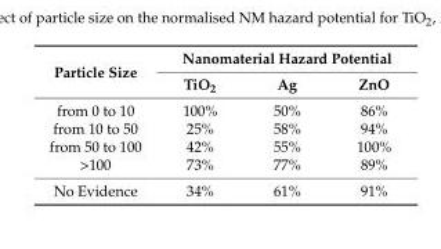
<table><thead><tr><td rowspan="2">Particle Size</td><td colspan="3">Nanomaterial Hazard Potential</td></tr><tr><td>TiO<sub>2</sub></td><td>Ag</td><td>ZnO</td></tr></thead><tbody><tr><td>from 0 to 10</td><td>100%</td><td>50%</td><td>86%</td></tr><tr><td>from 10 to 50</td><td>25%</td><td>58%</td><td>94%</td></tr><tr><td>from 50 to 100</td><td>42%</td><td>55%</td><td>100%</td></tr><tr><td>&gt;100</td><td>73%</td><td>77%</td><td>89%</td></tr><tr><td>No Evidence</td><td>34%</td><td>61%</td><td>91%</td></tr></tbody></table>